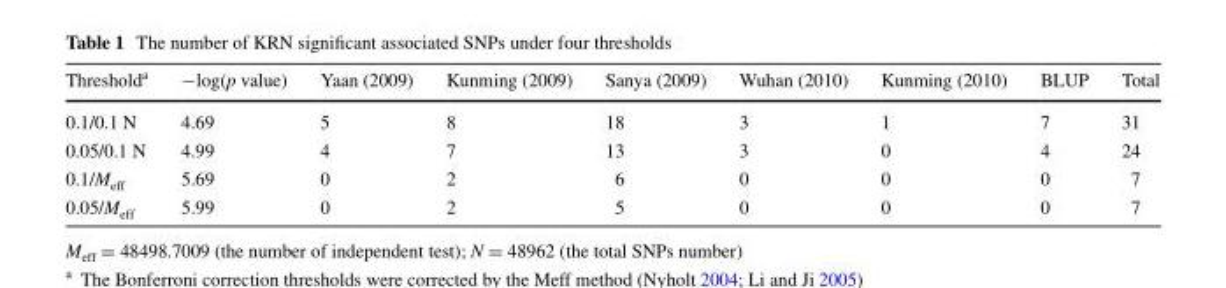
<table><thead><tr><td>Threshold<sup>a</sup></td><td>−log(p value)</td><td>Yaan (2009)</td><td>Kunming (2009)</td><td>Sanya (2009)</td><td>Wuhan (2010)</td><td>Kunming (2010)</td><td>BLUP</td><td>Total</td></tr></thead><tbody><tr><td>0.1/0.1 N</td><td>4.69</td><td>5</td><td>8</td><td>18</td><td>3</td><td>1</td><td>7</td><td>31</td></tr><tr><td>0.05/0.1 N</td><td>4.99</td><td>4</td><td>7</td><td>13</td><td>3</td><td>0</td><td>4</td><td>24</td></tr><tr><td>0.1/M<sub>eff</sub></td><td>5.69</td><td>0</td><td>2</td><td>6</td><td>0</td><td>0</td><td>0</td><td>7</td></tr><tr><td>0.05/M<sub>eff</sub></td><td>5.99</td><td>0</td><td>2</td><td>5</td><td>0</td><td>0</td><td>0</td><td>7</td></tr></tbody></table>